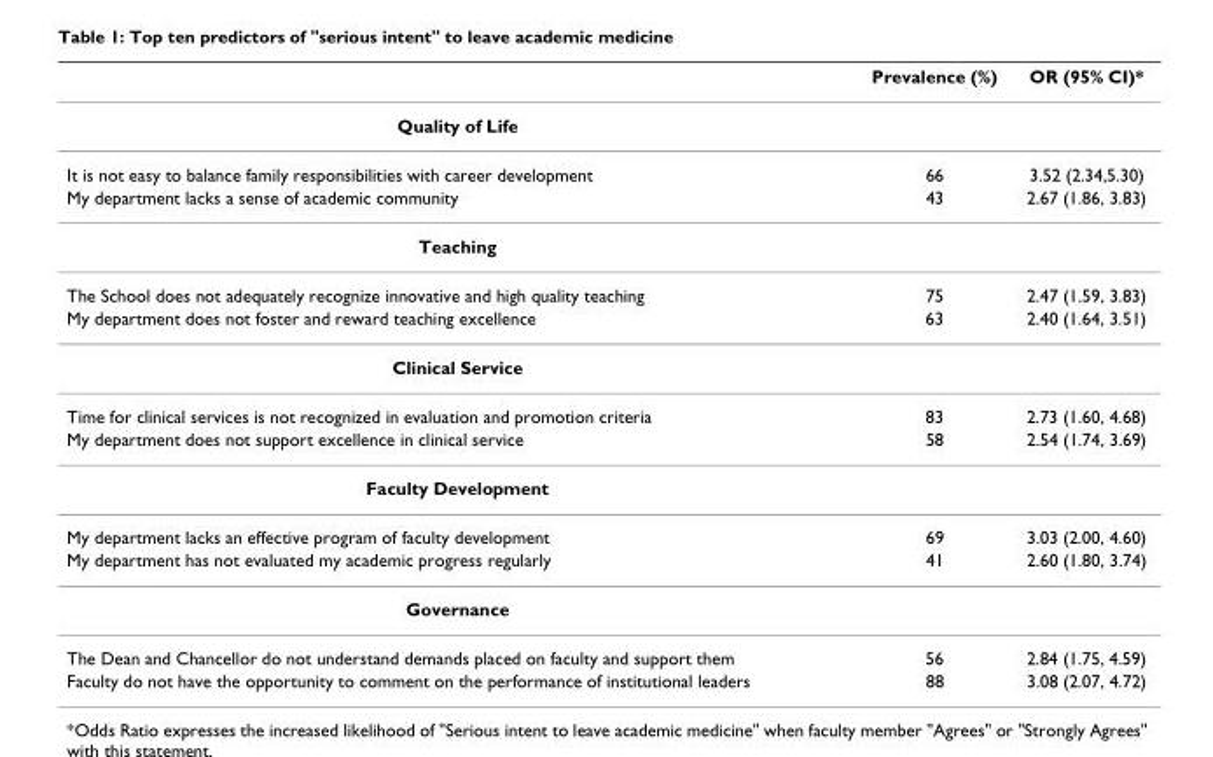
<table><thead><tr><td></td><td>Prevalence (%)</td><td>OR (95% CI)*</td></tr></thead><tbody><tr><td colspan="3">Quality of Life</td></tr><tr><td>It is not easy to balance family responsibilities with career development</td><td>66</td><td>3.52 (2.34,5.30)</td></tr><tr><td>My department lacks a sense of academic community</td><td>43</td><td>2.67 (1.86, 3.83)</td></tr><tr><td colspan="3">Teaching</td></tr><tr><td>The School does not adequately recognize innovative and high quality teaching</td><td>75</td><td>2.47 (1.59, 3.83)</td></tr><tr><td>My department does not foster and reward teaching excellence</td><td>63</td><td>2.40 (1.64, 3.51)</td></tr><tr><td colspan="3">Clinical Service</td></tr><tr><td>Time for clinical services is not recognized in evaluation and promotion criteria</td><td>83</td><td>2.73 (1.60, 4.68)</td></tr><tr><td>My department does not support excellence in clinical service</td><td>58</td><td>2.54 (1.74, 3.69)</td></tr><tr><td colspan="3">Faculty Development</td></tr><tr><td>My department lacks an effective program of faculty development</td><td>69</td><td>3.03 (2.00, 4.60)</td></tr><tr><td>My department has not evaluated my academic progress regularly</td><td>41</td><td>2.60 (1.80, 3.74)</td></tr><tr><td colspan="3">Governance</td></tr><tr><td>The Dean and Chancellor do not understand demands placed on faculty and support them</td><td>56</td><td>2.84 (1.75, 4.59)</td></tr><tr><td>Faculty do not have the opportunity to comment on the performance of institutional leaders</td><td>88</td><td>3.08 (2.07, 4.72)</td></tr></tbody></table>